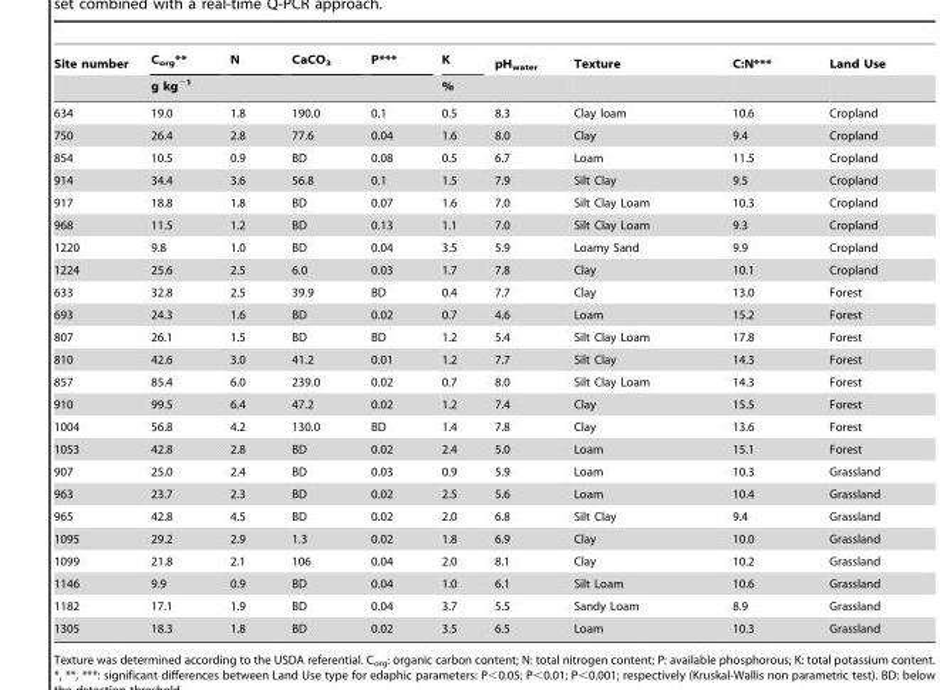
<table><thead><tr><td rowspan="2">Site number</td><td>C<sub>org</sub>**</td><td>N</td><td>CaCO<sub>3</sub></td><td>P***</td><td rowspan="2">K %</td><td rowspan="2">pH<sub>water</sub></td><td rowspan="2">Texture</td><td rowspan="2">C:N***</td><td rowspan="2">Land Use</td></tr><tr><td colspan="4">g kg<sup>−1</sup></td></tr></thead><tbody><tr><td>634</td><td>19.0</td><td>1.8</td><td>190.0</td><td>0.1</td><td>0.5</td><td>8.3</td><td>Clay loam</td><td>10.6</td><td>Cropland</td></tr><tr><td>750</td><td>26.4</td><td>2.8</td><td>77.6</td><td>0.04</td><td>1.6</td><td>8.0</td><td>Clay</td><td>9.4</td><td>Cropland</td></tr><tr><td>854</td><td>10.5</td><td>0.9</td><td>BD</td><td>0.08</td><td>0.5</td><td>6.7</td><td>Loam</td><td>11.5</td><td>Cropland</td></tr><tr><td>914</td><td>34.4</td><td>3.6</td><td>56.8</td><td>0.1</td><td>1.5</td><td>7.9</td><td>Silt Clay</td><td>9.5</td><td>Cropland</td></tr><tr><td>917</td><td>18.8</td><td>1.8</td><td>BD</td><td>0.07</td><td>1.6</td><td>7.0</td><td>Silt Clay Loam</td><td>10.3</td><td>Cropland</td></tr><tr><td>968</td><td>11.5</td><td>1.2</td><td>BD</td><td>0.13</td><td>1.1</td><td>7.0</td><td>Silt Clay Loam</td><td>9.3</td><td>Cropland</td></tr><tr><td>1220</td><td>9.8</td><td>1.0</td><td>BD</td><td>0.04</td><td>3.5</td><td>5.9</td><td>Loamy Sand</td><td>9.9</td><td>Cropland</td></tr><tr><td>1224</td><td>25.6</td><td>2.5</td><td>6.0</td><td>0.03</td><td>1.7</td><td>7.8</td><td>Clay</td><td>10.1</td><td>Cropland</td></tr><tr><td>633</td><td>32.8</td><td>2.5</td><td>39.9</td><td>BD</td><td>0.4</td><td>7.7</td><td>Clay</td><td>13.0</td><td>Forest</td></tr><tr><td>693</td><td>24.3</td><td>1.6</td><td>BD</td><td>0.02</td><td>0.7</td><td>4.6</td><td>Loam</td><td>15.2</td><td>Forest</td></tr><tr><td>807</td><td>26.1</td><td>1.5</td><td>BD</td><td>BD</td><td>1.2</td><td>5.4</td><td>Silt Clay Loam</td><td>17.8</td><td>Forest</td></tr><tr><td>810</td><td>42.6</td><td>3.0</td><td>41.2</td><td>0.01</td><td>1.2</td><td>7.7</td><td>Silt Clay</td><td>14.3</td><td>Forest</td></tr><tr><td>857</td><td>85.4</td><td>6.0</td><td>239.0</td><td>0.02</td><td>0.7</td><td>8.0</td><td>Silt Clay Loam</td><td>14.3</td><td>Forest</td></tr><tr><td>910</td><td>99.5</td><td>6.4</td><td>47.2</td><td>0.02</td><td>1.2</td><td>7.4</td><td>Clay</td><td>15.5</td><td>Forest</td></tr><tr><td>1004</td><td>56.8</td><td>4.2</td><td>130.0</td><td>BD</td><td>1.4</td><td>7.8</td><td>Clay</td><td>13.6</td><td>Forest</td></tr><tr><td>1053</td><td>42.8</td><td>2.8</td><td>BD</td><td>0.02</td><td>2.4</td><td>5.0</td><td>Loam</td><td>15.1</td><td>Forest</td></tr><tr><td>907</td><td>25.0</td><td>2.4</td><td>BD</td><td>0.03</td><td>0.9</td><td>5.9</td><td>Loam</td><td>10.3</td><td>Grassland</td></tr><tr><td>963</td><td>23.7</td><td>2.3</td><td>BD</td><td>0.02</td><td>2.5</td><td>5.6</td><td>Loam</td><td>10.4</td><td>Grassland</td></tr><tr><td>965</td><td>42.8</td><td>4.5</td><td>BD</td><td>0.02</td><td>2.0</td><td>6.8</td><td>Silt Clay</td><td>9.4</td><td>Grassland</td></tr><tr><td>1095</td><td>29.2</td><td>2.9</td><td>1.3</td><td>0.02</td><td>1.8</td><td>6.9</td><td>Clay</td><td>10.0</td><td>Grassland</td></tr><tr><td>1099</td><td>21.8</td><td>2.1</td><td>106</td><td>0.04</td><td>2.0</td><td>8.1</td><td>Clay</td><td>10.2</td><td>Grassland</td></tr><tr><td>1146</td><td>9.9</td><td>0.9</td><td>BD</td><td>0.04</td><td>1.0</td><td>6.1</td><td>Silt Loam</td><td>10.6</td><td>Grassland</td></tr><tr><td>1182</td><td>17.1</td><td>1.9</td><td>BD</td><td>0.04</td><td>3.7</td><td>5.5</td><td>Sandy Loam</td><td>8.9</td><td>Grassland</td></tr><tr><td>1305</td><td>18.3</td><td>1.8</td><td>BD</td><td>0.02</td><td>3.5</td><td>6.5</td><td>Loam</td><td>10.3</td><td>Grassland</td></tr></tbody></table>